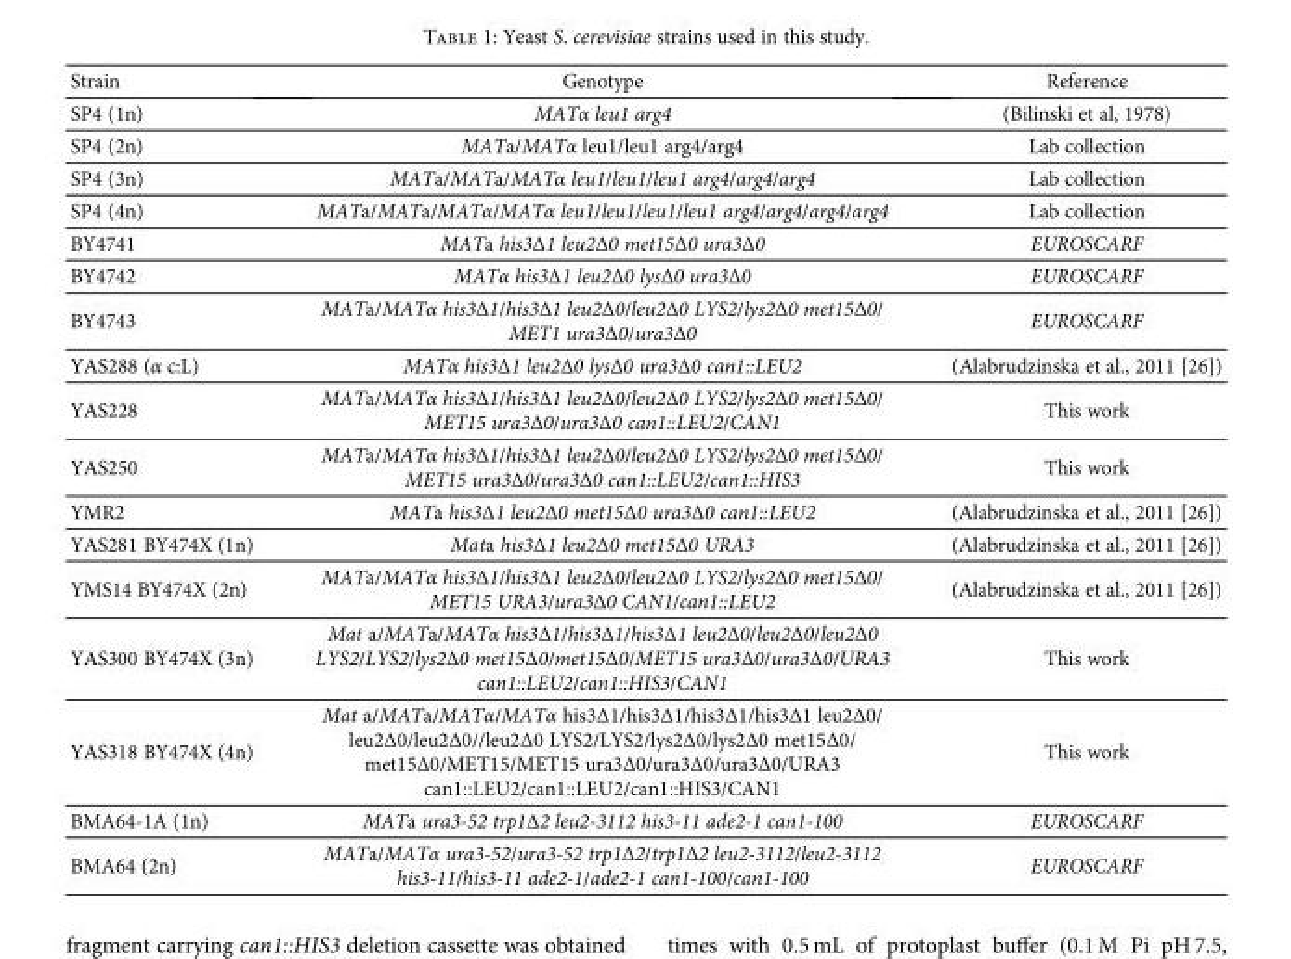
<table><thead><tr><td>Strain</td><td>Genotype</td><td>Reference</td></tr></thead><tbody><tr><td>SP4 (1n)</td><td>MATα leu1 arg4</td><td>(Bilinski et al, 1978)</td></tr><tr><td>SP4 (2n)</td><td>MATa/MATα leu1/leu1 arg4/arg4</td><td>Lab collection</td></tr><tr><td>SP4 (3n)</td><td>MATa/MATa/MATα leu1/leu1/leu1 arg4/arg4/arg4</td><td>Lab collection</td></tr><tr><td>SP4 (4n)</td><td>MATa/MATa/MATα/MATα leu1/leu1/leu1/leu1 arg4/arg4/arg4/arg4</td><td>Lab collection</td></tr><tr><td>BY4741</td><td>MATa his3Δ1 leu2Δ0 met15Δ0 ura3Δ0</td><td>EUROSCARF</td></tr><tr><td>BY4742</td><td>MATα his3Δ1 leu2Δ0 lysΔ0 ura3Δ0</td><td>EUROSCARF</td></tr><tr><td>BY4743</td><td>MATa/MATα his3Δ1/his3Δ1 leu2Δ0/leu2Δ0 LYS2/lys2Δ0 met15Δ0/ MET1 ura3Δ0/ura3Δ0</td><td>EUROSCARF</td></tr><tr><td>YAS288 (α c:L)</td><td>MATα his3Δ1 leu2Δ0 lysΔ0 ura3Δ0 can1::LEU2</td><td>(Alabrudzinska et al., 2011 [26])</td></tr><tr><td>YAS228</td><td>MATa/MATα his3Δ1/his3Δ1 leu2Δ0/leu2Δ0 LYS2/lys2Δ0 met15Δ0/ MET15 ura3Δ0/ura3Δ0 can1::LEU2/CAN1</td><td>This work</td></tr><tr><td>YAS250</td><td>MATa/MATα his3Δ1/his3Δ1 leu2Δ0/leu2Δ0 LYS2/lys2Δ0 met15Δ0/ MET15 ura3Δ0/ura3Δ0 can1::LEU2/can1::HIS3</td><td>This work</td></tr><tr><td>YMR2</td><td>MATa his3Δ1 leu2Δ0 met15Δ0 ura3Δ0 can1::LEU2</td><td>(Alabrudzinska et al., 2011 [26])</td></tr><tr><td>YAS281 BY474X (1n)</td><td>Mata his3Δ1 leu2Δ0 met15Δ0 URA3</td><td>(Alabrudzinska et al., 2011 [26])</td></tr><tr><td>YMS14 BY474X (2n)</td><td>MATa/MATα his3Δ1/his3Δ1 leu2Δ0/leu2Δ0 LYS2/lys2Δ0 met15Δ0/ MET15 URA3/ura3Δ0 CAN1/can1::LEU2</td><td>(Alabrudzinska et al., 2011 [26])</td></tr><tr><td>YAS300 BY474X (3n)</td><td>Mat a/MATa/MATα his3Δ1/his3Δ1/his3Δ1 leu2Δ0/leu2Δ0/leu2Δ0 LYS2/LYS2/lys2Δ0 met15Δ0/met15Δ0/MET15 ura3Δ0/ura3Δ0/URA3 can1::LEU2/can1::HIS3/CAN1</td><td>This work</td></tr><tr><td>YAS318 BY474X (4n)</td><td>Mat a/MATa/MATα/MATα his3Δ1/his3Δ1/his3Δ1/his3Δ1 leu2Δ0/ leu2Δ0/leu2Δ0//leu2Δ0 LYS2/LYS2/lys2Δ0/lys2Δ0 met15Δ0/ met15Δ0/MET15/MET15 ura3Δ0/ura3Δ0/ura3Δ0/URA3 can1::LEU2/can1::LEU2/can1::HIS3/CAN1</td><td>This work</td></tr><tr><td>BMA64-1A (1n)</td><td>MATa ura3-52 trp1Δ2 leu2-3112 his3-11 ade2-1 can1-100</td><td>EUROSCARF</td></tr><tr><td>BMA64 (2n)</td><td>MATa/MATα ura3-52/ura3-52 trp1Δ2/trp1Δ2 leu2-3112/leu2-3112 his3-11/his3-11 ade2-1/ade2-1 can1-100/can1-100</td><td>EUROSCARF</td></tr></tbody></table>